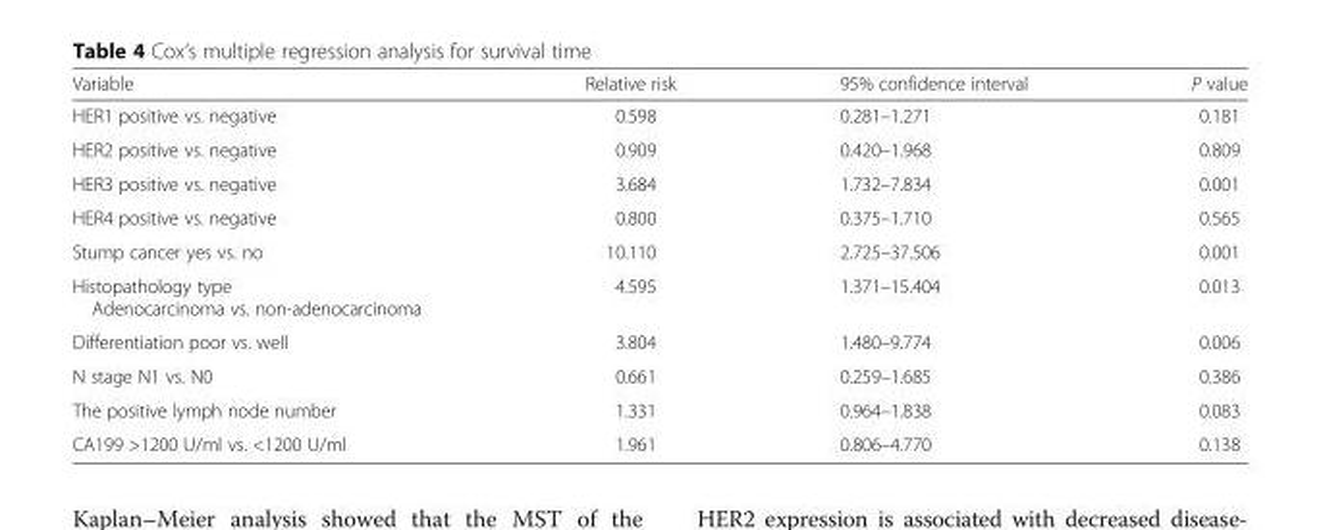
<table><thead><tr><td>Variable</td><td>Relative risk</td><td>95% confidence interval</td><td>P value</td></tr></thead><tbody><tr><td>HER1 positive vs. negative</td><td>0.598</td><td>0.281–1.271</td><td>0.181</td></tr><tr><td>HER2 positive vs. negative</td><td>0.909</td><td>0.420–1.968</td><td>0.809</td></tr><tr><td>HER3 positive vs. negative</td><td>3.684</td><td>1.732–7.834</td><td>0.001</td></tr><tr><td>HER4 positive vs. negative</td><td>0.800</td><td>0.375–1.710</td><td>0.565</td></tr><tr><td>Stump cancer yes vs. no</td><td>10.110</td><td>2.725–37.506</td><td>0.001</td></tr><tr><td>Histopathology type Adenocarcinoma vs. non-adenocarcinoma</td><td>4.595</td><td>1.371–15.404</td><td>0.013</td></tr><tr><td>Differentiation poor vs. well</td><td>3.804</td><td>1.480–9.774</td><td>0.006</td></tr><tr><td>N stage N1 vs. N0</td><td>0.661</td><td>0.259–1.685</td><td>0.386</td></tr><tr><td>The positive lymph node number</td><td>1.331</td><td>0.964–1.838</td><td>0.083</td></tr><tr><td>CA199 &gt;1200 U/ml vs. &lt;1200 U/ml</td><td>1.961</td><td>0.806–4.770</td><td>0.138</td></tr></tbody></table>